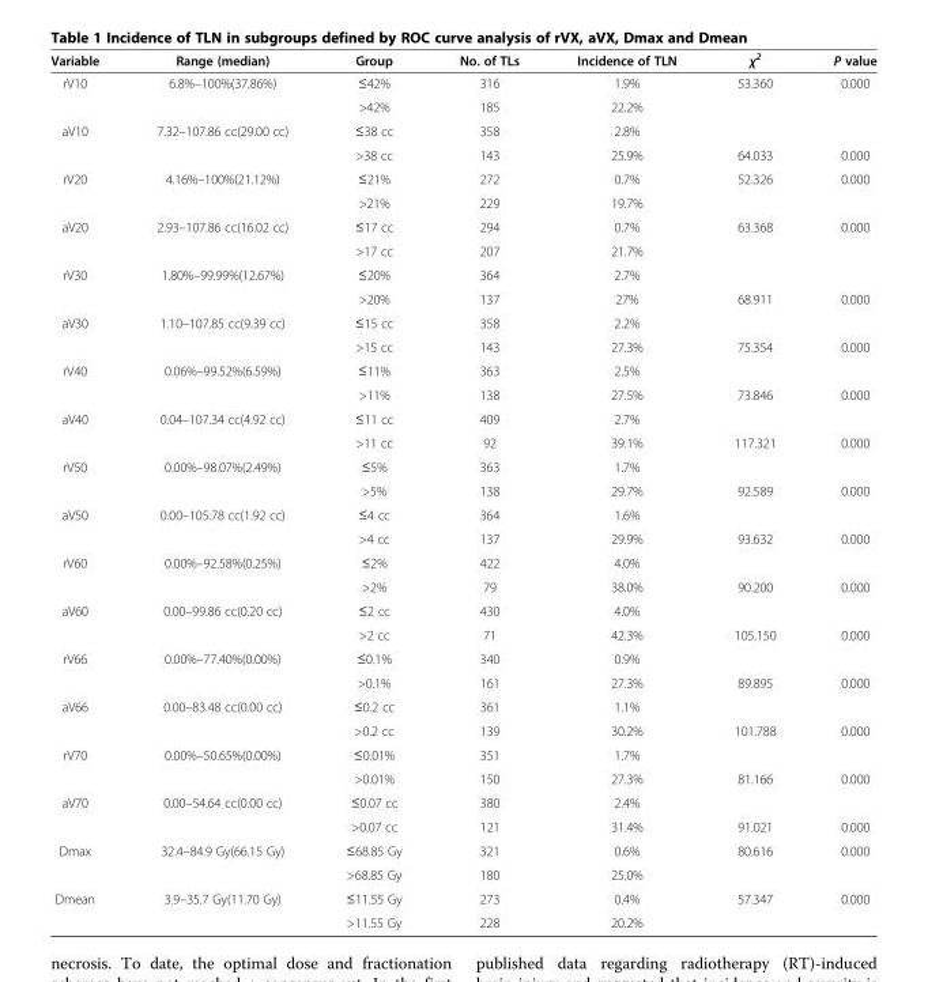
<table><thead><tr><td>Variable</td><td>Range (median)</td><td>Group</td><td>No. of TLs</td><td>Incidence of TLN</td><td>χ<sup>2</sup></td><td>P value</td></tr></thead><tbody><tr><td rowspan="2">rV10</td><td rowspan="2">6.8%–100%(37.86%)</td><td>≤42%</td><td>316</td><td>1.9%</td><td rowspan="2">53.360</td><td rowspan="2">0.000</td></tr><tr><td>&gt;42%</td><td>185</td><td>22.2%</td></tr><tr><td rowspan="2">aV10</td><td>7.32–107.86 cc(29.00 cc)</td><td>≤38 cc</td><td>358</td><td>2.8%</td><td></td><td></td></tr><tr><td></td><td>&gt;38 cc</td><td>143</td><td>25.9%</td><td>64.033</td><td>0.000</td></tr><tr><td rowspan="2">rV20</td><td rowspan="2">4.16%–100%(21.12%)</td><td>≤21%</td><td>272</td><td>0.7%</td><td rowspan="2">52.326</td><td rowspan="2">0.000</td></tr><tr><td>&gt;21%</td><td>229</td><td>19.7%</td></tr><tr><td rowspan="2">aV20</td><td rowspan="2">2.93–107.86 cc(16.02 cc)</td><td>≤17 cc</td><td>294</td><td>0.7%</td><td rowspan="2">63.368</td><td rowspan="2">0.000</td></tr><tr><td>&gt;17 cc</td><td>207</td><td>21.7%</td></tr><tr><td rowspan="2">rV30</td><td>1.80%–99.99%(12.67%)</td><td>≤20%</td><td>364</td><td>2.7%</td><td></td><td></td></tr><tr><td></td><td>&gt;20%</td><td>137</td><td>27%</td><td>68.911</td><td>0.000</td></tr><tr><td rowspan="2">aV30</td><td>1.10–107.85 cc(9.39 cc)</td><td>≤15 cc</td><td>358</td><td>2.2%</td><td></td><td></td></tr><tr><td></td><td>&gt;15 cc</td><td>143</td><td>27.3%</td><td>75.354</td><td>0.000</td></tr><tr><td rowspan="2">rV40</td><td>0.06%–99.52%(6.59%)</td><td>≤11%</td><td>363</td><td>2.5%</td><td></td><td></td></tr><tr><td></td><td>&gt;11%</td><td>138</td><td>27.5%</td><td>73.846</td><td>0.000</td></tr><tr><td rowspan="2">aV40</td><td>0.04–107.34 cc(4.92 cc)</td><td>≤11 cc</td><td>409</td><td>2.7%</td><td></td><td></td></tr><tr><td></td><td>&gt;11 cc</td><td>92</td><td>39.1%</td><td>117.321</td><td>0.000</td></tr><tr><td rowspan="2">rV50</td><td>0.00%–98.07%(2.49%)</td><td>≤5%</td><td>363</td><td>1.7%</td><td></td><td></td></tr><tr><td></td><td>&gt;5%</td><td>138</td><td>29.7%</td><td>92.589</td><td>0.000</td></tr><tr><td rowspan="2">aV50</td><td>0.00–105.78 cc(1.92 cc)</td><td>≤4 cc</td><td>364</td><td>1.6%</td><td></td><td></td></tr><tr><td></td><td>&gt;4 cc</td><td>137</td><td>29.9%</td><td>93.632</td><td>0.000</td></tr><tr><td rowspan="2">rV60</td><td>0.00%–92.58%(0.25%)</td><td>≤2%</td><td>422</td><td>4.0%</td><td></td><td></td></tr><tr><td></td><td>&gt;2%</td><td>79</td><td>38.0%</td><td>90.200</td><td>0.000</td></tr><tr><td rowspan="2">aV60</td><td>0.00–99.86 cc(0.20 cc)</td><td>≤2 cc</td><td>430</td><td>4.0%</td><td></td><td></td></tr><tr><td></td><td>&gt;2 cc</td><td>71</td><td>42.3%</td><td>105.150</td><td>0.000</td></tr><tr><td rowspan="2">rV66</td><td>0.00%–77.40%(0.00%)</td><td>≤0.1%</td><td>340</td><td>0.9%</td><td></td><td></td></tr><tr><td></td><td>&gt;0.1%</td><td>161</td><td>27.3%</td><td>89.895</td><td>0.000</td></tr><tr><td rowspan="2">aV66</td><td>0.00–83.48 cc(0.00 cc)</td><td>≤0.2 cc</td><td>361</td><td>1.1%</td><td></td><td></td></tr><tr><td></td><td>&gt;0.2 cc</td><td>139</td><td>30.2%</td><td>101.788</td><td>0.000</td></tr><tr><td rowspan="2">rV70</td><td>0.00%–50.65%(0.00%)</td><td>≤0.01%</td><td>351</td><td>1.7%</td><td></td><td></td></tr><tr><td></td><td>&gt;0.01%</td><td>150</td><td>27.3%</td><td>81.166</td><td>0.000</td></tr><tr><td rowspan="2">aV70</td><td>0.00–54.64 cc(0.00 cc)</td><td>≤0.07 cc</td><td>380</td><td>2.4%</td><td></td><td></td></tr><tr><td></td><td>&gt;0.07 cc</td><td>121</td><td>31.4%</td><td>91.021</td><td>0.000</td></tr><tr><td rowspan="2">Dmax</td><td rowspan="2">32.4–84.9 Gy(66.15 Gy)</td><td>≤68.85 Gy</td><td>321</td><td>0.6%</td><td rowspan="2">80.616</td><td rowspan="2">0.000</td></tr><tr><td>&gt;68.85 Gy</td><td>180</td><td>25.0%</td></tr><tr><td rowspan="2">Dmean</td><td>3.9–35.7 Gy(11.70 Gy)</td><td>≤11.55 Gy</td><td>273</td><td>0.4%</td><td>57.347</td><td>0.000</td></tr><tr><td></td><td>&gt;11.55 Gy</td><td>228</td><td>20.2%</td><td></td><td></td></tr></tbody></table>